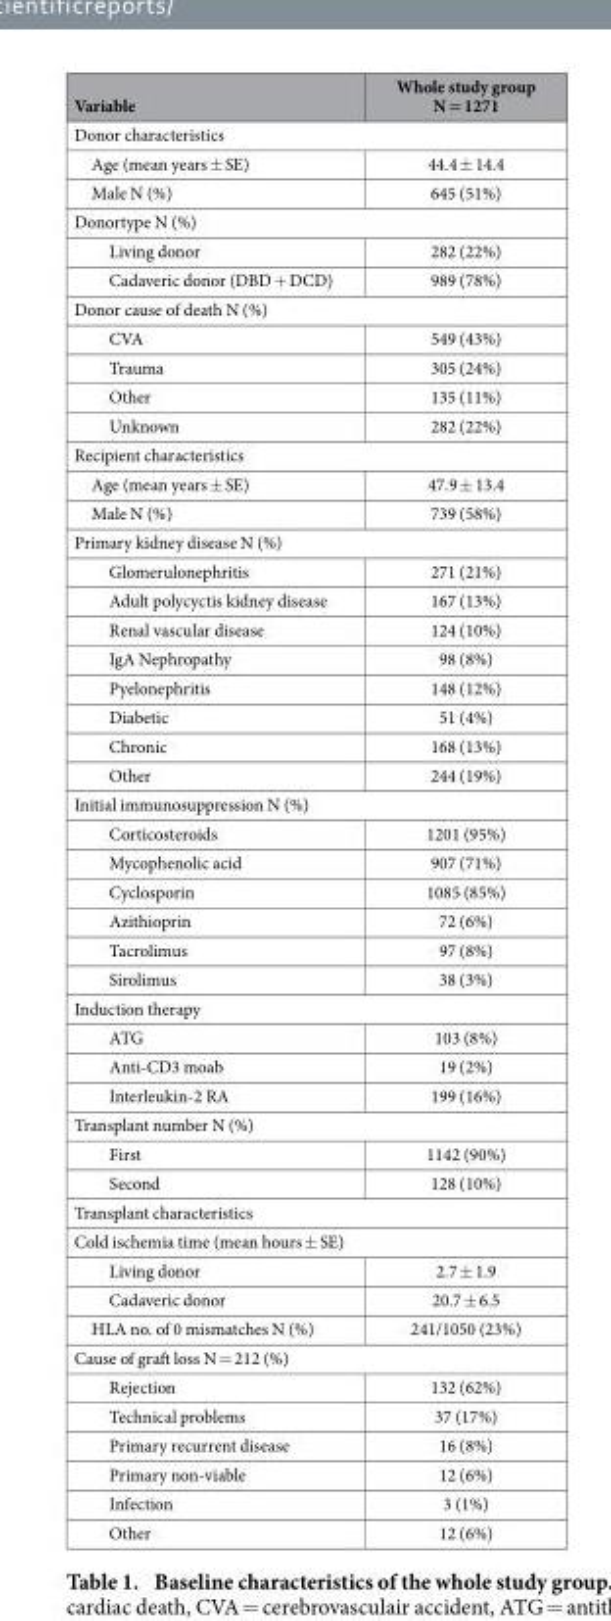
<table><thead><tr><td>Variable</td><td>Whole study group N = 1271</td></tr></thead><tbody><tr><td colspan="2">Donor characteristics</td></tr><tr><td>Age (mean years ± SE)</td><td>44.4 ± 14.4</td></tr><tr><td>Male N (%)</td><td>645 (51%)</td></tr><tr><td colspan="2">Donortype N (%)</td></tr><tr><td>Living donor</td><td>282 (22%)</td></tr><tr><td>Cadaveric donor (DBD + DCD)</td><td>989 (78%)</td></tr><tr><td colspan="2">Donor cause of death N (%)</td></tr><tr><td>CVA</td><td>549 (43%)</td></tr><tr><td>Trauma</td><td>305 (24%)</td></tr><tr><td>Other</td><td>135 (11%)</td></tr><tr><td>Unknown</td><td>282 (22%)</td></tr><tr><td colspan="2">Recipient characteristics</td></tr><tr><td>Age (mean years ± SE)</td><td>47.9 ± 13.4</td></tr><tr><td>Male N (%)</td><td>739 (58%)</td></tr><tr><td colspan="2">Primary kidney disease N (%)</td></tr><tr><td>Glomerulonephritis</td><td>271 (21%)</td></tr><tr><td>Adult polycyctis kidney disease</td><td>167 (13%)</td></tr><tr><td>Renal vascular disease</td><td>124 (10%)</td></tr><tr><td>IgA Nephropathy</td><td>98 (8%)</td></tr><tr><td>Pyelonephritis</td><td>148 (12%)</td></tr><tr><td>Diabetic</td><td>51 (4%)</td></tr><tr><td>Chronic</td><td>168 (13%)</td></tr><tr><td>Other</td><td>244 (19%)</td></tr><tr><td colspan="2">Initial immunosuppression N (%)</td></tr><tr><td>Corticosteroids</td><td>1201 (95%)</td></tr><tr><td>Mycophenolic acid</td><td>907 (71%)</td></tr><tr><td>Cyclosporin</td><td>1085 (85%)</td></tr><tr><td>Azithioprin</td><td>72 (6%)</td></tr><tr><td>Tacrolimus</td><td>97 (8%)</td></tr><tr><td>Sirolimus</td><td>38 (3%)</td></tr><tr><td colspan="2">Induction therapy</td></tr><tr><td>ATG</td><td>103 (8%)</td></tr><tr><td>Anti-CD3 moab</td><td>19 (2%)</td></tr><tr><td>Interleukin-2 RA</td><td>199 (16%)</td></tr><tr><td colspan="2">Transplant number N (%)</td></tr><tr><td>First</td><td>1142 (90%)</td></tr><tr><td>Second</td><td>128 (10%)</td></tr><tr><td colspan="2">Transplant characteristics</td></tr><tr><td colspan="2">Cold ischemia time (mean hours ± SE)</td></tr><tr><td>Living donor</td><td>2.7 ± 1.9</td></tr><tr><td>Cadaveric donor</td><td>20.7 ± 6.5</td></tr><tr><td>HLA no. of 0 mismatches N (%)</td><td>241/1050 (23%)</td></tr><tr><td colspan="2">Cause of graft loss N = 212 (%)</td></tr><tr><td>Rejection</td><td>132 (62%)</td></tr><tr><td>Technical problems</td><td>37 (17%)</td></tr><tr><td>Primary recurrent disease</td><td>16 (8%)</td></tr><tr><td>Primary non-viable</td><td>12 (6%)</td></tr><tr><td>Infection</td><td>3 (1%)</td></tr><tr><td>Other</td><td>12 (6%)</td></tr></tbody></table>